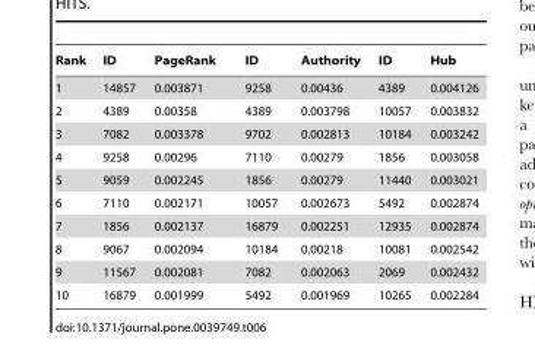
<table><thead><tr><td>Rank</td><td>ID</td><td>PageRank</td><td>ID</td><td>Authority</td><td>ID</td><td>Hub</td></tr></thead><tbody><tr><td>1</td><td>14857</td><td>0.003871</td><td>9258</td><td>0.00436</td><td>4389</td><td>0.004126</td></tr><tr><td>2</td><td>4389</td><td>0.00358</td><td>4389</td><td>0.003798</td><td>10057</td><td>0.003832</td></tr><tr><td>3</td><td>7082</td><td>0.003378</td><td>9702</td><td>0.002813</td><td>10184</td><td>0.003242</td></tr><tr><td>4</td><td>9258</td><td>0.00296</td><td>7110</td><td>0.00279</td><td>1856</td><td>0.003058</td></tr><tr><td>5</td><td>9059</td><td>0.002245</td><td>1856</td><td>0.00279</td><td>11440</td><td>0.003021</td></tr><tr><td>6</td><td>7110</td><td>0.002171</td><td>10057</td><td>0.002673</td><td>5492</td><td>0.002874</td></tr><tr><td>7</td><td>1856</td><td>0.002137</td><td>16879</td><td>0.002251</td><td>12935</td><td>0.002874</td></tr><tr><td>8</td><td>9067</td><td>0.002094</td><td>10184</td><td>0.00218</td><td>10081</td><td>0.002542</td></tr><tr><td>9</td><td>11567</td><td>0.002081</td><td>7082</td><td>0.002063</td><td>2069</td><td>0.002432</td></tr><tr><td>10</td><td>16879</td><td>0.001999</td><td>5492</td><td>0.001969</td><td>10265</td><td>0.002284</td></tr></tbody></table>